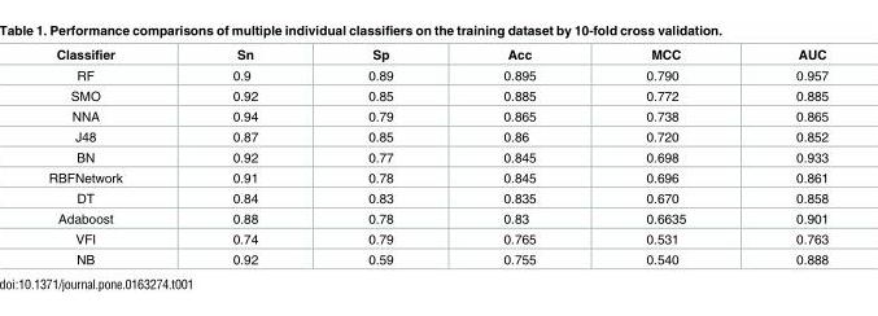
<table><thead><tr><td>Classifier</td><td>Sn</td><td>Sp</td><td>Acc</td><td>MCC</td><td>AUC</td></tr></thead><tbody><tr><td>RF</td><td>0.9</td><td>0.89</td><td>0.895</td><td>0.790</td><td>0.957</td></tr><tr><td>SMO</td><td>0.92</td><td>0.85</td><td>0.885</td><td>0.772</td><td>0.885</td></tr><tr><td>NNA</td><td>0.94</td><td>0.79</td><td>0.865</td><td>0.738</td><td>0.865</td></tr><tr><td>J48</td><td>0.87</td><td>0.85</td><td>0.86</td><td>0.720</td><td>0.852</td></tr><tr><td>BN</td><td>0.92</td><td>0.77</td><td>0.845</td><td>0.698</td><td>0.933</td></tr><tr><td>RBFNetwork</td><td>0.91</td><td>0.78</td><td>0.845</td><td>0.696</td><td>0.861</td></tr><tr><td>DT</td><td>0.84</td><td>0.83</td><td>0.835</td><td>0.670</td><td>0.858</td></tr><tr><td>Adaboost</td><td>0.88</td><td>0.78</td><td>0.83</td><td>0.6635</td><td>0.901</td></tr><tr><td>VFI</td><td>0.74</td><td>0.79</td><td>0.765</td><td>0.531</td><td>0.763</td></tr><tr><td>NB</td><td>0.92</td><td>0.59</td><td>0.755</td><td>0.540</td><td>0.888</td></tr></tbody></table>